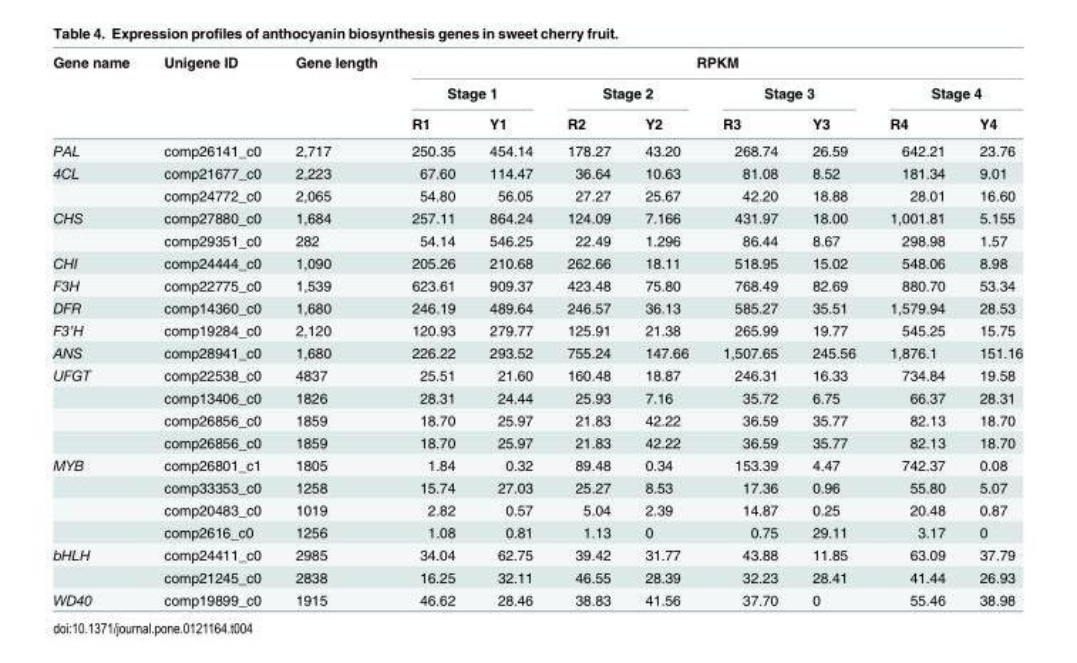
<table><thead><tr><td rowspan="3">Gene name</td><td rowspan="3">Unigene ID</td><td rowspan="3">Gene length</td><td colspan="8">RPKM</td></tr><tr><td colspan="2">Stage 1</td><td colspan="2">Stage 2</td><td colspan="2">Stage 3</td><td colspan="2">Stage 4</td></tr><tr><td>R1</td><td>Y1</td><td>R2</td><td>Y2</td><td>R3</td><td>Y3</td><td>R4</td><td>Y4</td></tr></thead><tbody><tr><td>PAL</td><td>comp26141_c0</td><td>2,717</td><td>250.35</td><td>454.14</td><td>178.27</td><td>43.20</td><td>268.74</td><td>26.59</td><td>642.21</td><td>23.76</td></tr><tr><td rowspan="2">4CL</td><td>comp21677_c0</td><td>2,223</td><td>67.60</td><td>114.47</td><td>36.64</td><td>10.63</td><td>81.08</td><td>8.52</td><td>181.34</td><td>9.01</td></tr><tr><td>comp24772_c0</td><td>2,065</td><td>54.80</td><td>56.05</td><td>27.27</td><td>25.67</td><td>42.20</td><td>18.88</td><td>28.01</td><td>16.60</td></tr><tr><td rowspan="2">CHS</td><td>comp27880_c0</td><td>1,684</td><td>257.11</td><td>864.24</td><td>124.09</td><td>7.166</td><td>431.97</td><td>18.00</td><td>1,001.81</td><td>5.155</td></tr><tr><td>comp29351_c0</td><td>282</td><td>54.14</td><td>546.25</td><td>22.49</td><td>1.296</td><td>86.44</td><td>8.67</td><td>298.98</td><td>1.57</td></tr><tr><td>CHI</td><td>comp24444_c0</td><td>1,090</td><td>205.26</td><td>210.68</td><td>262.66</td><td>18.11</td><td>518.95</td><td>15.02</td><td>548.06</td><td>8.98</td></tr><tr><td>F3H</td><td>comp22775_c0</td><td>1,539</td><td>623.61</td><td>909.37</td><td>423.48</td><td>75.80</td><td>768.49</td><td>82.69</td><td>880.70</td><td>53.34</td></tr><tr><td>DFR</td><td>comp14360_c0</td><td>1,680</td><td>246.19</td><td>489.64</td><td>246.57</td><td>36.13</td><td>585.27</td><td>35.51</td><td>1,579.94</td><td>28.53</td></tr><tr><td>F3’H</td><td>comp19284_c0</td><td>2,120</td><td>120.93</td><td>279.77</td><td>125.91</td><td>21.38</td><td>265.99</td><td>19.77</td><td>545.25</td><td>15.75</td></tr><tr><td>ANS</td><td>comp28941_c0</td><td>1,680</td><td>226.22</td><td>293.52</td><td>755.24</td><td>147.66</td><td>1,507.65</td><td>245.56</td><td>1,876.1</td><td>151.16</td></tr><tr><td rowspan="4">UFGT</td><td>comp22538_c0</td><td>4837</td><td>25.51</td><td>21.60</td><td>160.48</td><td>18.87</td><td>246.31</td><td>16.33</td><td>734.84</td><td>19.58</td></tr><tr><td>comp13406_c0</td><td>1826</td><td>28.31</td><td>24.44</td><td>25.93</td><td>7.16</td><td>35.72</td><td>6.75</td><td>66.37</td><td>28.31</td></tr><tr><td>comp26856_c0</td><td>1859</td><td>18.70</td><td>25.97</td><td>21.83</td><td>42.22</td><td>36.59</td><td>35.77</td><td>82.13</td><td>18.70</td></tr><tr><td>comp26856_c0</td><td>1859</td><td>18.70</td><td>25.97</td><td>21.83</td><td>42.22</td><td>36.59</td><td>35.77</td><td>82.13</td><td>18.70</td></tr><tr><td rowspan="4">MYB</td><td>comp26801_c1</td><td>1805</td><td>1.84</td><td>0.32</td><td>89.48</td><td>0.34</td><td>153.39</td><td>4.47</td><td>742.37</td><td>0.08</td></tr><tr><td>comp33353_c0</td><td>1258</td><td>15.74</td><td>27.03</td><td>25.27</td><td>8.53</td><td>17.36</td><td>0.96</td><td>55.80</td><td>5.07</td></tr><tr><td>comp20483_c0</td><td>1019</td><td>2.82</td><td>0.57</td><td>5.04</td><td>2.39</td><td>14.87</td><td>0.25</td><td>20.48</td><td>0.87</td></tr><tr><td>comp2616_c0</td><td>1256</td><td>1.08</td><td>0.81</td><td>1.13</td><td>0</td><td>0.75</td><td>29.11</td><td>3.17</td><td>0</td></tr><tr><td rowspan="2">bHLH</td><td>comp24411_c0</td><td>2985</td><td>34.04</td><td>62.75</td><td>39.42</td><td>31.77</td><td>43.88</td><td>11.85</td><td>63.09</td><td>37.79</td></tr><tr><td>comp21245_c0</td><td>2838</td><td>16.25</td><td>32.11</td><td>46.55</td><td>28.39</td><td>32.23</td><td>28.41</td><td>41.44</td><td>26.93</td></tr><tr><td>WD40</td><td>comp19899_c0</td><td>1915</td><td>46.62</td><td>28.46</td><td>38.83</td><td>41.56</td><td>37.70</td><td>0</td><td>55.46</td><td>38.98</td></tr></tbody></table>